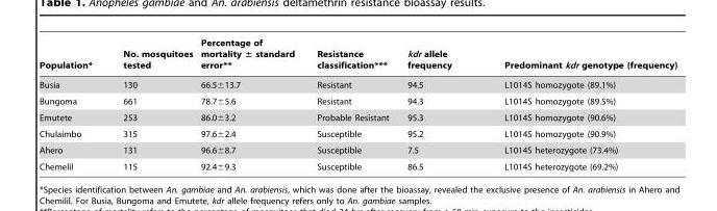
<table><thead><tr><td>Population*</td><td>No. mosquitoes tested</td><td>Percentage of mortality ± standard error**</td><td>Resistance classification***</td><td>kdr allele frequency</td><td>Predominant kdr genotype (frequency)</td></tr></thead><tbody><tr><td>Busia</td><td>130</td><td>66.5±13.7</td><td>Resistant</td><td>94.5</td><td>L1014S homozygote (89.1%)</td></tr><tr><td>Bungoma</td><td>661</td><td>78.7±5.6</td><td>Resistant</td><td>94.3</td><td>L1014S homozygote (89.5%)</td></tr><tr><td>Emutete</td><td>253</td><td>86.0±3.2</td><td>Probable Resistant</td><td>95.3</td><td>L1014S homozygote (90.6%)</td></tr><tr><td>Chulaimbo</td><td>315</td><td>97.6±2.4</td><td>Susceptible</td><td>95.2</td><td>L1014S homozygote (90.9%)</td></tr><tr><td>Ahero</td><td>131</td><td>96.6±8.7</td><td>Susceptible</td><td>7.5</td><td>L1014S heterozygote (73.4%)</td></tr><tr><td>Chemelil</td><td>115</td><td>92.4±9.3</td><td>Susceptible</td><td>86.5</td><td>L1014S heterozygote (69.2%)</td></tr></tbody></table>